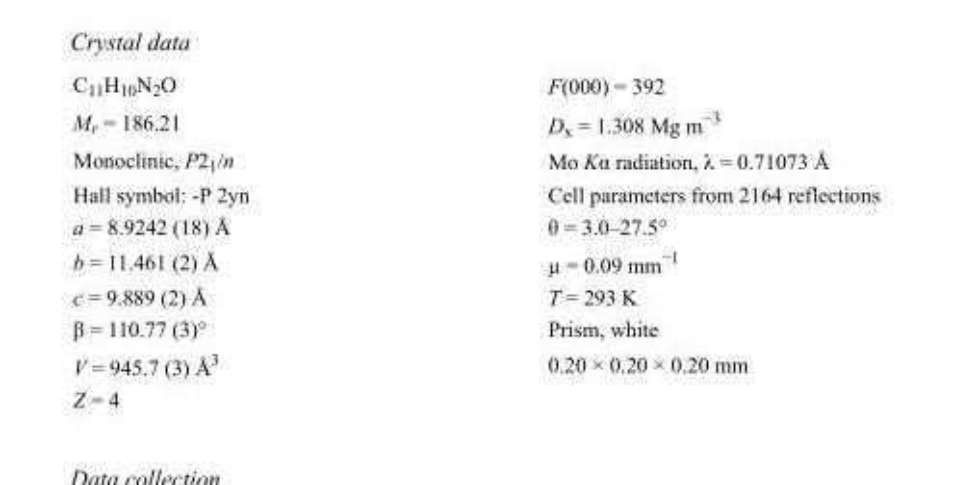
<table><tbody><tr><td>C<sub>11</sub>H<sub>10</sub>N<sub>2</sub>O</td><td>F(000) = 392</td></tr><tr><td>M<sub>r</sub> = 186.21</td><td>D<sub>x</sub> = 1.308 Mg m<sup>−3</sup></td></tr><tr><td>Monoclinic, P2<sub>1</sub>/n</td><td>Mo Kα radiation, λ = 0.71073 Å</td></tr><tr><td>Hall symbol: -P 2yn</td><td>Cell parameters from 2164 reflections</td></tr><tr><td>a = 8.9242 (18) Å</td><td>θ = 3.0–27.5°</td></tr><tr><td>b = 11.461 (2) Å</td><td>µ = 0.09 mm<sup>−1</sup></td></tr><tr><td>c = 9.889 (2) Å</td><td>T = 293 K</td></tr><tr><td>β = 110.77 (3)°</td><td>Prism, white</td></tr><tr><td>V = 945.7 (3) Å<sup>3</sup></td><td>0.20 × 0.20 × 0.20 mm</td></tr><tr><td>Z = 4</td><td></td></tr></tbody></table>